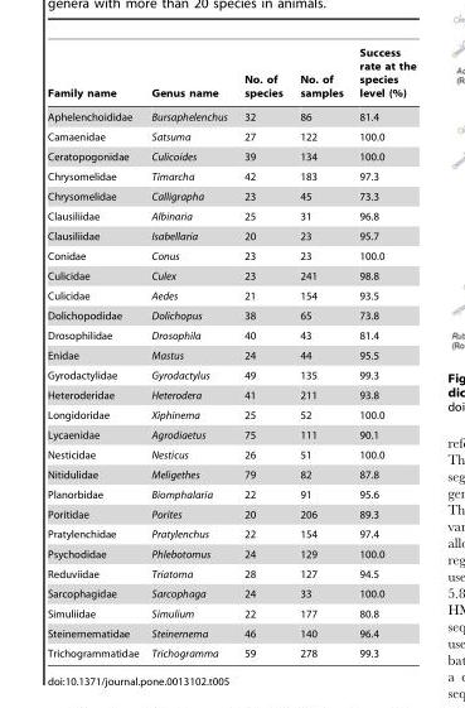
<table><thead><tr><td>Family name</td><td>Genus name</td><td>No. of species</td><td>No. of samples</td><td>Success rate at the species level (%)</td></tr></thead><tbody><tr><td>Aphelenchoididae</td><td>Bursaphelenchus</td><td>32</td><td>86</td><td>81.4</td></tr><tr><td>Camaenidae</td><td>Satsuma</td><td>27</td><td>122</td><td>100.0</td></tr><tr><td>Ceratopogonidae</td><td>Culicoides</td><td>39</td><td>134</td><td>100.0</td></tr><tr><td>Chrysomelidae</td><td>Timarcha</td><td>42</td><td>183</td><td>97.3</td></tr><tr><td>Chrysomelidae</td><td>Calligrapha</td><td>23</td><td>45</td><td>73.3</td></tr><tr><td>Clausiliidae</td><td>Albinaria</td><td>25</td><td>31</td><td>96.8</td></tr><tr><td>Clausiliidae</td><td>Isabellaria</td><td>20</td><td>23</td><td>95.7</td></tr><tr><td>Conidae</td><td>Conus</td><td>23</td><td>23</td><td>100.0</td></tr><tr><td>Culicidae</td><td>Culex</td><td>23</td><td>241</td><td>98.8</td></tr><tr><td>Culicidae</td><td>Aedes</td><td>21</td><td>154</td><td>93.5</td></tr><tr><td>Dolichopodidae</td><td>Dolichopus</td><td>38</td><td>65</td><td>73.8</td></tr><tr><td>Drosophilidae</td><td>Drosophila</td><td>40</td><td>43</td><td>81.4</td></tr><tr><td>Enidae</td><td>Mastus</td><td>24</td><td>44</td><td>95.5</td></tr><tr><td>Gyrodactylidae</td><td>Gyrodactylus</td><td>49</td><td>135</td><td>99.3</td></tr><tr><td>Heteroderidae</td><td>Heterodera</td><td>41</td><td>211</td><td>93.8</td></tr><tr><td>Longidoridae</td><td>Xiphinema</td><td>25</td><td>52</td><td>100.0</td></tr><tr><td>Lycaenidae</td><td>Agrodiaetus</td><td>75</td><td>111</td><td>90.1</td></tr><tr><td>Nesticidae</td><td>Nesticus</td><td>26</td><td>51</td><td>100.0</td></tr><tr><td>Nitidulidae</td><td>Meligethes</td><td>79</td><td>82</td><td>87.8</td></tr><tr><td>Planorbidae</td><td>Biomphalaria</td><td>22</td><td>91</td><td>95.6</td></tr><tr><td>Poritidae</td><td>Porites</td><td>20</td><td>206</td><td>89.3</td></tr><tr><td>Pratylenchidae</td><td>Pratylenchus</td><td>22</td><td>154</td><td>97.4</td></tr><tr><td>Psychodidae</td><td>Phlebotomus</td><td>24</td><td>129</td><td>100.0</td></tr><tr><td>Reduviidae</td><td>Triatoma</td><td>28</td><td>127</td><td>94.5</td></tr><tr><td>Sarcophagidae</td><td>Sarcophaga</td><td>24</td><td>33</td><td>100.0</td></tr><tr><td>Simuliidae</td><td>Simulium</td><td>22</td><td>177</td><td>80.8</td></tr><tr><td>Steinernematidae</td><td>Steinernema</td><td>46</td><td>140</td><td>96.4</td></tr><tr><td>Trichogrammatidae</td><td>Trichogramma</td><td>59</td><td>278</td><td>99.3</td></tr></tbody></table>